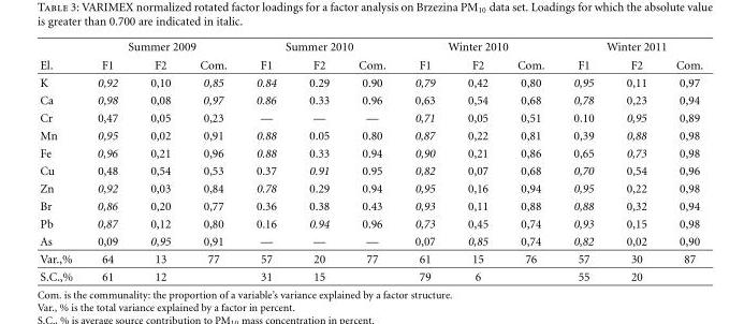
<table><thead><tr><td rowspan="2">El.</td><td colspan="3">Summer 2009</td><td colspan="3">Summer 2010</td><td colspan="3">Winter 2010</td><td colspan="3">Winter 2011</td></tr><tr><td>F1</td><td>F2</td><td>Com.</td><td>F1</td><td>F2</td><td>Com.</td><td>F1</td><td>F2</td><td>Com.</td><td>F1</td><td>F2</td><td>Com.</td></tr></thead><tbody><tr><td>K</td><td>0,92</td><td>0,10</td><td>0,85</td><td>0.84</td><td>0.29</td><td>0.90</td><td>0,79</td><td>0,42</td><td>0,80</td><td>0,95</td><td>0,11</td><td>0,97</td></tr><tr><td>Ca</td><td>0,98</td><td>0,08</td><td>0,97</td><td>0.86</td><td>0.33</td><td>0.96</td><td>0,63</td><td>0,54</td><td>0,68</td><td>0,78</td><td>0,23</td><td>0,94</td></tr><tr><td>Cr</td><td>0,47</td><td>0,05</td><td>0,23</td><td>—</td><td>—</td><td>—</td><td>0,71</td><td>0,05</td><td>0,51</td><td>0.10</td><td>0,95</td><td>0,89</td></tr><tr><td>Mn</td><td>0,95</td><td>0,02</td><td>0,91</td><td>0.88</td><td>0.05</td><td>0.80</td><td>0,87</td><td>0,22</td><td>0,81</td><td>0,39</td><td>0,88</td><td>0,98</td></tr><tr><td>Fe</td><td>0,96</td><td>0,21</td><td>0,96</td><td>0.88</td><td>0.33</td><td>0.94</td><td>0,90</td><td>0,21</td><td>0,86</td><td>0,65</td><td>0,73</td><td>0,98</td></tr><tr><td>Cu</td><td>0,48</td><td>0,54</td><td>0,53</td><td>0.37</td><td>0.91</td><td>0.95</td><td>0,82</td><td>0,07</td><td>0,68</td><td>0,70</td><td>0,54</td><td>0,96</td></tr><tr><td>Zn</td><td>0,92</td><td>0,03</td><td>0,84</td><td>0.78</td><td>0.29</td><td>0.94</td><td>0,95</td><td>0,16</td><td>0,94</td><td>0,95</td><td>0,22</td><td>0,98</td></tr><tr><td>Br</td><td>0,86</td><td>0,20</td><td>0,77</td><td>0.36</td><td>0.38</td><td>0.43</td><td>0,93</td><td>0,11</td><td>0,88</td><td>0,88</td><td>0,32</td><td>0,94</td></tr><tr><td>Pb</td><td>0,87</td><td>0,12</td><td>0,80</td><td>0.16</td><td>0.94</td><td>0.96</td><td>0,73</td><td>0,45</td><td>0,74</td><td>0,93</td><td>0,15</td><td>0,98</td></tr><tr><td>As</td><td>0,09</td><td>0,95</td><td>0,91</td><td>—</td><td>—</td><td>—</td><td>0,07</td><td>0,85</td><td>0,74</td><td>0,82</td><td>0,02</td><td>0,90</td></tr><tr><td>Var.,%</td><td>64</td><td>13</td><td>77</td><td>57</td><td>20</td><td>77</td><td>61</td><td>15</td><td>76</td><td>57</td><td>30</td><td>87</td></tr><tr><td>S.C.,%</td><td>61</td><td>12</td><td></td><td>31</td><td>15</td><td></td><td>79</td><td>6</td><td></td><td>55</td><td>20</td><td></td></tr></tbody></table>